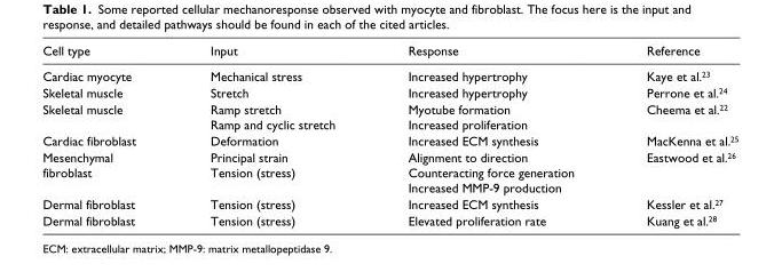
<table><thead><tr><td>Cell type</td><td>Input</td><td>Response</td><td>Reference</td></tr></thead><tbody><tr><td>Cardiac myocyte</td><td>Mechanical stress</td><td>Increased hypertrophy</td><td>Kaye et al.<sup>23</sup></td></tr><tr><td>Skeletal muscle</td><td>Stretch</td><td>Increased hypertrophy</td><td>Perrone et al.<sup>24</sup></td></tr><tr><td>Skeletal muscle</td><td>Ramp stretch Ramp and cyclic stretch</td><td>Myotube formation Increased proliferation</td><td>Cheema et al.<sup>22</sup></td></tr><tr><td>Cardiac fibroblast</td><td>Deformation</td><td>Increased ECM synthesis</td><td>MacKenna et al.<sup>25</sup></td></tr><tr><td>Mesenchymal fibroblast</td><td>Principal strain Tension (stress)</td><td>Alignment to direction Counteracting force generation Increased MMP-9 production</td><td>Eastwood et al.<sup>26</sup></td></tr><tr><td>Dermal fibroblast</td><td>Tension (stress)</td><td>Increased ECM synthesis</td><td>Kessler et al.<sup>27</sup></td></tr><tr><td>Dermal fibroblast</td><td>Tension (stress)</td><td>Elevated proliferation rate</td><td>Kuang et al.<sup>28</sup></td></tr></tbody></table>